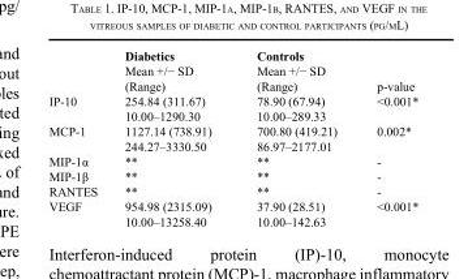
<table><thead><tr><td></td><td>Diabetics</td><td>Controls</td><td></td></tr></thead><tbody><tr><td></td><td>Mean +/− SD (Range)</td><td>Mean +/− SD (Range)</td><td>p-value</td></tr><tr><td rowspan="2">IP-10</td><td>254.84 (311.67)</td><td>78.90 (67.94)</td><td>&lt;0.001*</td></tr><tr><td>10.00–1290.30</td><td>10.00–289.33</td><td></td></tr><tr><td rowspan="2">MCP-1</td><td>1127.14 (738.91)</td><td>700.80 (419.21)</td><td>0.002*</td></tr><tr><td>244.27–3330.50</td><td>86.97–2177.01</td><td></td></tr><tr><td>MIP-1α</td><td>**</td><td>**</td><td>-</td></tr><tr><td>MIP-1β</td><td>**</td><td>**</td><td>-</td></tr><tr><td>RANTES</td><td>**</td><td>**</td><td>-</td></tr><tr><td rowspan="2">VEGF</td><td>954.98 (2315.09)</td><td>37.90 (28.51)</td><td>&lt;0.001*</td></tr><tr><td>10.00–13258.40</td><td>10.00–142.63</td><td></td></tr></tbody></table>